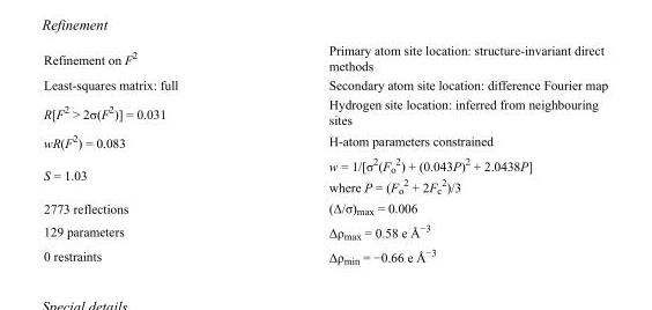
<table><tbody><tr><td>Refinement on F<sup>2</sup></td><td>Primary atom site location: structure-invariant direct methods</td></tr><tr><td>Least-squares matrix: full</td><td>Secondary atom site location: difference Fourier map</td></tr><tr><td>R[F<sup>2</sup> &gt; 2σ(F<sup>2</sup>)] = 0.031</td><td>Hydrogen site location: inferred from neighbouring sites</td></tr><tr><td>wR(F<sup>2</sup>) = 0.083</td><td>H-atom parameters constrained</td></tr><tr><td>S = 1.03</td><td>w = 1/[σ<sup>2</sup>(F<sub>o</sub> <sup>2</sup>) + (0.043P)<sup>2</sup> + 2.0438P] where P = (F<sub>o</sub> <sup>2</sup> + 2F<sub>c</sub> <sup>2</sup>)/3</td></tr><tr><td>2773 reflections</td><td>(Δ/σ)<sub>max</sub> = 0.006</td></tr><tr><td>129 parameters</td><td>Δρ<sub>max</sub> = 0.58 e Å<sup>−3</sup></td></tr><tr><td>0 restraints</td><td>Δρ<sub>min</sub> = −0.66 e Å<sup>−3</sup></td></tr></tbody></table>